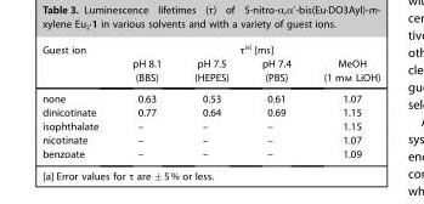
<table><thead><tr><td rowspan="2">Guest ion</td><td colspan="4">τ<sup>[a]</sup> [ms]</td></tr><tr><td>pH 8.1 (BBS)</td><td>pH 7.5 (HEPES)</td><td>pH 7.4 (PBS)</td><td>MeOH (1 mm LiOH)</td></tr></thead><tbody><tr><td>none</td><td>0.63</td><td>0.53</td><td>0.61</td><td>1.07</td></tr><tr><td>dinicotinate</td><td>0.77</td><td>0.64</td><td>0.69</td><td>1.15</td></tr><tr><td>isophthalate</td><td>–</td><td>–</td><td>–</td><td>1.15</td></tr><tr><td>nicotinate</td><td>–</td><td>–</td><td>–</td><td>1.07</td></tr><tr><td>benzoate</td><td>–</td><td>–</td><td>–</td><td>1.09</td></tr></tbody></table>